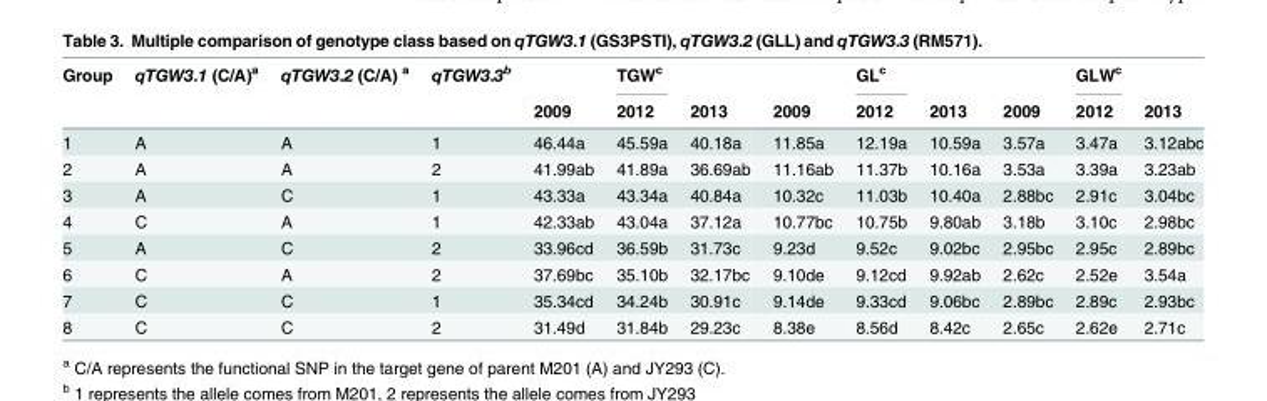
<table><thead><tr><td rowspan="2">Group</td><td rowspan="2">qTGW3.1 (C/A)<sup>a</sup></td><td rowspan="2">qTGW3.2 (C/A) <sup>a</sup></td><td rowspan="2">qTGW3.3<sup>b</sup></td><td rowspan="2">2009</td><td rowspan="2">TGW<sup>c</sup> 2012</td><td rowspan="2">2013</td><td rowspan="2">2009</td><td rowspan="2">GL<sup>c</sup> 2012</td><td rowspan="2">2013</td><td rowspan="2">2009</td><td rowspan="2">GLW<sup>c</sup> 2012</td><td rowspan="2">2013</td></tr><tr></tr></thead><tbody><tr><td>1</td><td>A</td><td>A</td><td>1</td><td>46.44a</td><td>45.59a</td><td>40.18a</td><td>11.85a</td><td>12.19a</td><td>10.59a</td><td>3.57a</td><td>3.47a</td><td>3.12abc</td></tr><tr><td>2</td><td>A</td><td>A</td><td>2</td><td>41.99ab</td><td>41.89a</td><td>36.69ab</td><td>11.16ab</td><td>11.37b</td><td>10.16a</td><td>3.53a</td><td>3.39a</td><td>3.23ab</td></tr><tr><td>3</td><td>A</td><td>C</td><td>1</td><td>43.33a</td><td>43.34a</td><td>40.84a</td><td>10.32c</td><td>11.03b</td><td>10.40a</td><td>2.88bc</td><td>2.91c</td><td>3.04bc</td></tr><tr><td>4</td><td>C</td><td>A</td><td>1</td><td>42.33ab</td><td>43.04a</td><td>37.12a</td><td>10.77bc</td><td>10.75b</td><td>9.80ab</td><td>3.18b</td><td>3.10c</td><td>2.98bc</td></tr><tr><td>5</td><td>A</td><td>C</td><td>2</td><td>33.96cd</td><td>36.59b</td><td>31.73c</td><td>9.23d</td><td>9.52c</td><td>9.02bc</td><td>2.95bc</td><td>2.95c</td><td>2.89bc</td></tr><tr><td>6</td><td>C</td><td>A</td><td>2</td><td>37.69bc</td><td>35.10b</td><td>32.17bc</td><td>9.10de</td><td>9.12cd</td><td>9.92ab</td><td>2.62c</td><td>2.52e</td><td>3.54a</td></tr><tr><td>7</td><td>C</td><td>C</td><td>1</td><td>35.34cd</td><td>34.24b</td><td>30.91c</td><td>9.14de</td><td>9.33cd</td><td>9.06bc</td><td>2.89bc</td><td>2.89c</td><td>2.93bc</td></tr><tr><td>8</td><td>C</td><td>C</td><td>2</td><td>31.49d</td><td>31.84b</td><td>29.23c</td><td>8.38e</td><td>8.56d</td><td>8.42c</td><td>2.65c</td><td>2.62e</td><td>2.71c</td></tr></tbody></table>